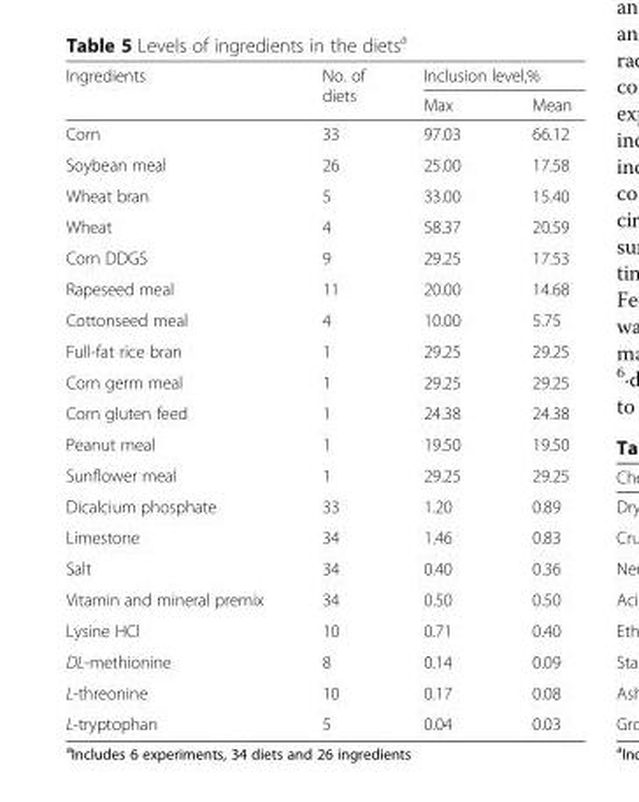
<table><thead><tr><td rowspan="2">Ingredients</td><td rowspan="2">No. of diets</td><td colspan="2">Inclusion level,%</td></tr><tr><td>Max</td><td>Mean</td></tr></thead><tbody><tr><td>Corn</td><td>33</td><td>97.03</td><td>66.12</td></tr><tr><td>Soybean meal</td><td>26</td><td>25.00</td><td>17.58</td></tr><tr><td>Wheat bran</td><td>5</td><td>33.00</td><td>15.40</td></tr><tr><td>Wheat</td><td>4</td><td>58.37</td><td>20.59</td></tr><tr><td>Corn DDGS</td><td>9</td><td>29.25</td><td>17.53</td></tr><tr><td>Rapeseed meal</td><td>11</td><td>20.00</td><td>14.68</td></tr><tr><td>Cottonseed meal</td><td>4</td><td>10.00</td><td>5.75</td></tr><tr><td>Full-fat rice bran</td><td>1</td><td>29.25</td><td>29.25</td></tr><tr><td>Corn germ meal</td><td>1</td><td>29.25</td><td>29.25</td></tr><tr><td>Corn gluten feed</td><td>1</td><td>24.38</td><td>24.38</td></tr><tr><td>Peanut meal</td><td>1</td><td>19.50</td><td>19.50</td></tr><tr><td>Sunflower meal</td><td>1</td><td>29.25</td><td>29.25</td></tr><tr><td>Dicalcium phosphate</td><td>33</td><td>1.20</td><td>0.89</td></tr><tr><td>Limestone</td><td>34</td><td>1.46</td><td>0.83</td></tr><tr><td>Salt</td><td>34</td><td>0.40</td><td>0.36</td></tr><tr><td>Vitamin and mineral premix</td><td>34</td><td>0.50</td><td>0.50</td></tr><tr><td>Lysine HCl</td><td>10</td><td>0.71</td><td>0.40</td></tr><tr><td>DL-methionine</td><td>8</td><td>0.14</td><td>0.09</td></tr><tr><td>L-threonine</td><td>10</td><td>0.17</td><td>0.08</td></tr><tr><td>L-tryptophan</td><td>5</td><td>0.04</td><td>0.03</td></tr></tbody></table>